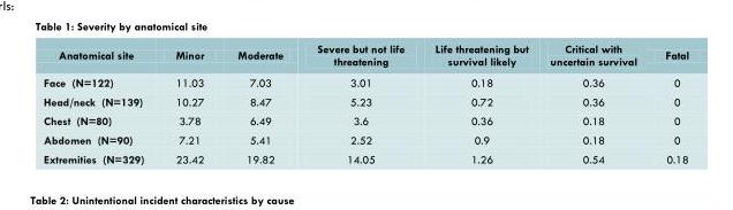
<table><thead><tr><td>Anatomical site</td><td>Minor</td><td>Moderate</td><td>Severe but not life threatening</td><td>Life threatening but survival likely</td><td>Critical with uncertain survival</td><td>Fatal</td></tr></thead><tbody><tr><td>Face (N=122)</td><td>11.03</td><td>7.03</td><td>3.01</td><td>0.18</td><td>0.36</td><td>0</td></tr><tr><td>Head/neck (N=139)</td><td>10.27</td><td>8.47</td><td>5.23</td><td>0.72</td><td>0.36</td><td>0</td></tr><tr><td>Chest (N=80)</td><td>3.78</td><td>6.49</td><td>3.6</td><td>0.36</td><td>0.18</td><td>0</td></tr><tr><td>Abdomen (N=90)</td><td>7.21</td><td>5.41</td><td>2.52</td><td>0.9</td><td>0.18</td><td>0</td></tr><tr><td>Extremities (N=329)</td><td>23.42</td><td>19.82</td><td>14.05</td><td>1.26</td><td>0.54</td><td>0.18</td></tr></tbody></table>